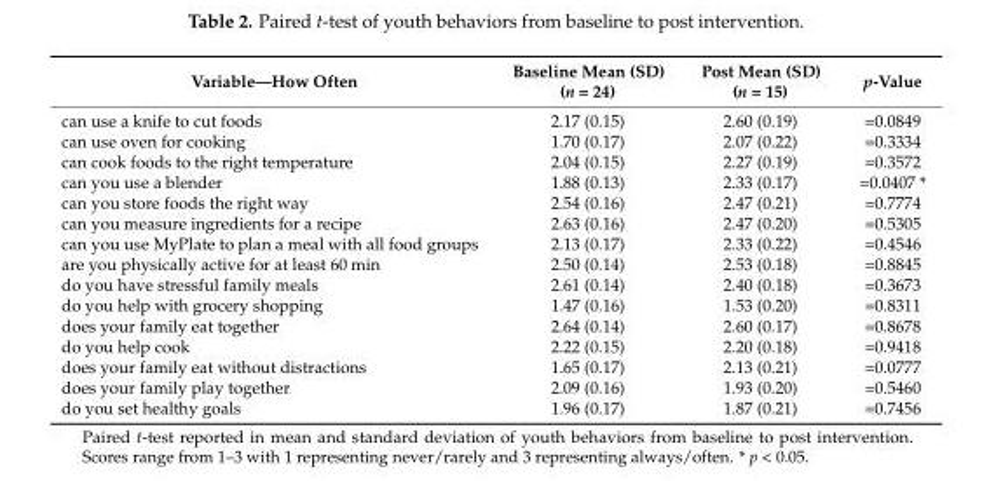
<table><thead><tr><td>Variable—How Often</td><td>Baseline Mean (SD) (n = 24)</td><td>Post Mean (SD) (n = 15)</td><td>p-Value</td></tr></thead><tbody><tr><td>can use a knife to cut foods</td><td>2.17 (0.15)</td><td>2.60 (0.19)</td><td>=0.0849</td></tr><tr><td>can use oven for cooking</td><td>1.70 (0.17)</td><td>2.07 (0.22)</td><td>=0.3334</td></tr><tr><td>can cook foods to the right temperature</td><td>2.04 (0.15)</td><td>2.27 (0.19)</td><td>=0.3572</td></tr><tr><td>can you use a blender</td><td>1.88 (0.13)</td><td>2.33 (0.17)</td><td>=0.0407 *</td></tr><tr><td>can you store foods the right way</td><td>2.54 (0.16)</td><td>2.47 (0.21)</td><td>=0.7774</td></tr><tr><td>can you measure ingredients for a recipe</td><td>2.63 (0.16)</td><td>2.47 (0.20)</td><td>=0.5305</td></tr><tr><td>can you use MyPlate to plan a meal with all food groups</td><td>2.13 (0.17)</td><td>2.33 (0.22)</td><td>=0.4546</td></tr><tr><td>are you physically active for at least 60 min</td><td>2.50 (0.14)</td><td>2.53 (0.18)</td><td>=0.8845</td></tr><tr><td>do you have stressful family meals</td><td>2.61 (0.14)</td><td>2.40 (0.18)</td><td>=0.3673</td></tr><tr><td>do you help with grocery shopping</td><td>1.47 (0.16)</td><td>1.53 (0.20)</td><td>=0.8311</td></tr><tr><td>does your family eat together</td><td>2.64 (0.14)</td><td>2.60 (0.17)</td><td>=0.8678</td></tr><tr><td>do you help cook</td><td>2.22 (0.15)</td><td>2.20 (0.18)</td><td>=0.9418</td></tr><tr><td>does your family eat without distractions</td><td>1.65 (0.17)</td><td>2.13 (0.21)</td><td>=0.0777</td></tr><tr><td>does your family play together</td><td>2.09 (0.16)</td><td>1.93 (0.20)</td><td>=0.5460</td></tr><tr><td>do you set healthy goals</td><td>1.96 (0.17)</td><td>1.87 (0.21)</td><td>=0.7456</td></tr></tbody></table>